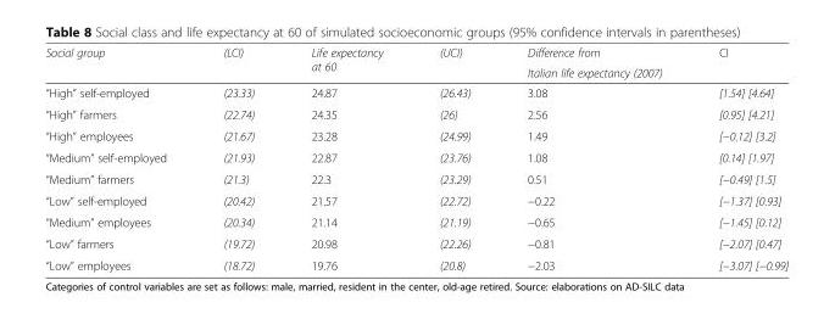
<table><thead><tr><td rowspan="2">Social group</td><td rowspan="2">(LCI)</td><td rowspan="2">Life expectancy at 60</td><td rowspan="2">(UCI)</td><td rowspan="2">Difference from Italian life expectancy (2007)</td><td rowspan="2">CI</td></tr><tr></tr></thead><tbody><tr><td>“High” self-employed</td><td>(23.33)</td><td>24.87</td><td>(26.43)</td><td>3.08</td><td>[1.54] [4.64]</td></tr><tr><td>“High” farmers</td><td>(22.74)</td><td>24.35</td><td>(26)</td><td>2.56</td><td>[0.95] [4.21]</td></tr><tr><td>“High” employees</td><td>(21.67)</td><td>23.28</td><td>(24.99)</td><td>1.49</td><td>[−0.12] [3.2]</td></tr><tr><td>“Medium” self-employed</td><td>(21.93)</td><td>22.87</td><td>(23.76)</td><td>1.08</td><td>[0.14] [1.97]</td></tr><tr><td>“Medium” farmers</td><td>(21.3)</td><td>22.3</td><td>(23.29)</td><td>0.51</td><td>[−0.49] [1.5]</td></tr><tr><td>“Low” self-employed</td><td>(20.42)</td><td>21.57</td><td>(22.72)</td><td>−0.22</td><td>[−1.37] [0.93]</td></tr><tr><td>“Medium” employees</td><td>(20.34)</td><td>21.14</td><td>(21.19)</td><td>−0.65</td><td>[−1.45] [0.12]</td></tr><tr><td>“Low” farmers</td><td>(19.72)</td><td>20.98</td><td>(22.26)</td><td>−0.81</td><td>[−2.07] [0.47]</td></tr><tr><td>“Low” employees</td><td>(18.72)</td><td>19.76</td><td>(20.8)</td><td>−2.03</td><td>[−3.07] [−0.99]</td></tr></tbody></table>